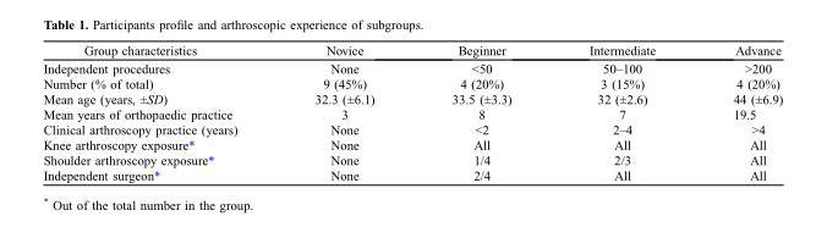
<table><thead><tr><td>Group characteristics</td><td>Novice</td><td>Beginner</td><td>Intermediate</td><td>Advance</td></tr></thead><tbody><tr><td>Independent procedures</td><td>None</td><td>&lt;50</td><td>50–100</td><td>&gt;200</td></tr><tr><td>Number (% of total)</td><td>9 (45%)</td><td>4 (20%)</td><td>3 (15%)</td><td>4 (20%)</td></tr><tr><td>Mean age (years, ±SD)</td><td>32.3 (±6.1)</td><td>33.5 (±3.3)</td><td>32 (±2.6)</td><td>44 (±6.9)</td></tr><tr><td>Mean years of orthopaedic practice</td><td>3</td><td>8</td><td>7</td><td>19.5</td></tr><tr><td>Clinical arthroscopy practice (years)</td><td>None</td><td>&lt;2</td><td>2–4</td><td>&gt;4</td></tr><tr><td>Knee arthroscopy exposure*</td><td>None</td><td>All</td><td>All</td><td>All</td></tr><tr><td>Shoulder arthroscopy exposure*</td><td>None</td><td>1/4</td><td>2/3</td><td>All</td></tr><tr><td>Independent surgeon*</td><td>None</td><td>2/4</td><td>All</td><td>All</td></tr></tbody></table>